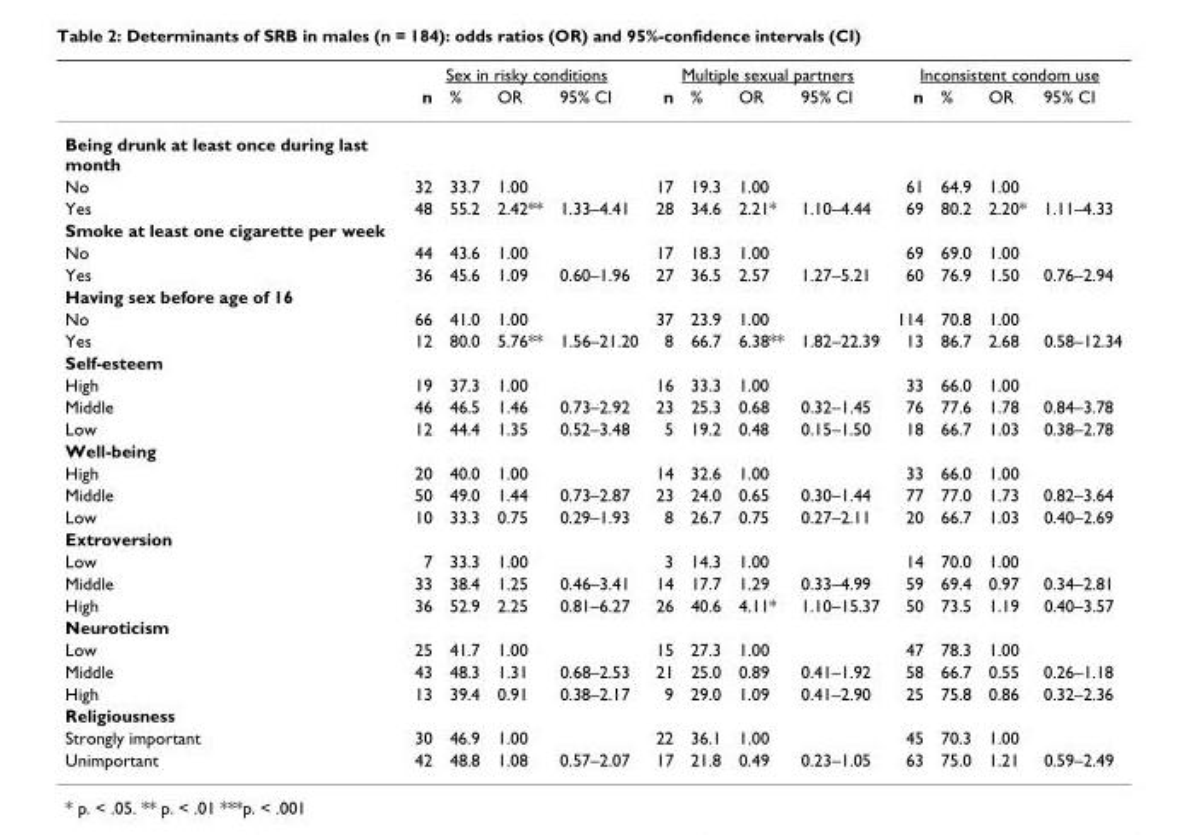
<table><thead><tr><td rowspan="2"></td><td colspan="4">Sex in risky conditions</td><td colspan="4">Multiple sexual partners</td><td colspan="4">Inconsistent condom use</td></tr><tr><td>n</td><td>%</td><td>OR</td><td>95% CI</td><td>n</td><td>%</td><td>OR</td><td>95% CI</td><td>n</td><td>%</td><td>OR</td><td>95% CI</td></tr></thead><tbody><tr><td colspan="13">Being drunk at least once during last month</td></tr><tr><td>No</td><td>32</td><td>33.7</td><td>1.00</td><td></td><td>17</td><td>19.3</td><td>1.00</td><td></td><td>61</td><td>64.9</td><td>1.00</td><td></td></tr><tr><td>Yes</td><td>48</td><td>55.2</td><td>2.42**</td><td>1.33–4.41</td><td>28</td><td>34.6</td><td>2.21*</td><td>1.10–4.44</td><td>69</td><td>80.2</td><td>2.20*</td><td>1.11–4.33</td></tr><tr><td colspan="13">Smoke at least one cigarette per week</td></tr><tr><td>No</td><td>44</td><td>43.6</td><td>1.00</td><td></td><td>17</td><td>18.3</td><td>1.00</td><td></td><td>69</td><td>69.0</td><td>1.00</td><td></td></tr><tr><td>Yes</td><td>36</td><td>45.6</td><td>1.09</td><td>0.60–1.96</td><td>27</td><td>36.5</td><td>2.57</td><td>1.27–5.21</td><td>60</td><td>76.9</td><td>1.50</td><td>0.76–2.94</td></tr><tr><td colspan="13">Having sex before age of 16</td></tr><tr><td>No</td><td>66</td><td>41.0</td><td>1.00</td><td></td><td>37</td><td>23.9</td><td>1.00</td><td></td><td>114</td><td>70.8</td><td>1.00</td><td></td></tr><tr><td>Yes</td><td>12</td><td>80.0</td><td>5.76**</td><td>1.56–21.20</td><td>8</td><td>66.7</td><td>6.38**</td><td>1.82–22.39</td><td>13</td><td>86.7</td><td>2.68</td><td>0.58–12.34</td></tr><tr><td colspan="13">Self-esteem</td></tr><tr><td>High</td><td>19</td><td>37.3</td><td>1.00</td><td></td><td>16</td><td>33.3</td><td>1.00</td><td></td><td>33</td><td>66.0</td><td>1.00</td><td></td></tr><tr><td>Middle</td><td>46</td><td>46.5</td><td>1.46</td><td>0.73–2.92</td><td>23</td><td>25.3</td><td>0.68</td><td>0.32–1.45</td><td>76</td><td>77.6</td><td>1.78</td><td>0.84–3.78</td></tr><tr><td>Low</td><td>12</td><td>44.4</td><td>1.35</td><td>0.52–3.48</td><td>5</td><td>19.2</td><td>0.48</td><td>0.15–1.50</td><td>18</td><td>66.7</td><td>1.03</td><td>0.38–2.78</td></tr><tr><td colspan="13">Well-being</td></tr><tr><td>High</td><td>20</td><td>40.0</td><td>1.00</td><td></td><td>14</td><td>32.6</td><td>1.00</td><td></td><td>33</td><td>66.0</td><td>1.00</td><td></td></tr><tr><td>Middle</td><td>50</td><td>49.0</td><td>1.44</td><td>0.73–2.87</td><td>23</td><td>24.0</td><td>0.65</td><td>0.30–1.44</td><td>77</td><td>77.0</td><td>1.73</td><td>0.82–3.64</td></tr><tr><td>Low</td><td>10</td><td>33.3</td><td>0.75</td><td>0.29–1.93</td><td>8</td><td>26.7</td><td>0.75</td><td>0.27–2.11</td><td>20</td><td>66.7</td><td>1.03</td><td>0.40–2.69</td></tr><tr><td colspan="13">Extroversion</td></tr><tr><td>Low</td><td>7</td><td>33.3</td><td>1.00</td><td></td><td>3</td><td>14.3</td><td>1.00</td><td></td><td>14</td><td>70.0</td><td>1.00</td><td></td></tr><tr><td>Middle</td><td>33</td><td>38.4</td><td>1.25</td><td>0.46–3.41</td><td>14</td><td>17.7</td><td>1.29</td><td>0.33–4.99</td><td>59</td><td>69.4</td><td>0.97</td><td>0.34–2.81</td></tr><tr><td>High</td><td>36</td><td>52.9</td><td>2.25</td><td>0.81–6.27</td><td>26</td><td>40.6</td><td>4.11*</td><td>1.10–15.37</td><td>50</td><td>73.5</td><td>1.19</td><td>0.40–3.57</td></tr><tr><td colspan="13">Neuroticism</td></tr><tr><td>Low</td><td>25</td><td>41.7</td><td>1.00</td><td></td><td>15</td><td>27.3</td><td>1.00</td><td></td><td>47</td><td>78.3</td><td>1.00</td><td></td></tr><tr><td>Middle</td><td>43</td><td>48.3</td><td>1.31</td><td>0.68–2.53</td><td>21</td><td>25.0</td><td>0.89</td><td>0.41–1.92</td><td>58</td><td>66.7</td><td>0.55</td><td>0.26–1.18</td></tr><tr><td>High</td><td>13</td><td>39.4</td><td>0.91</td><td>0.38–2.17</td><td>9</td><td>29.0</td><td>1.09</td><td>0.41–2.90</td><td>25</td><td>75.8</td><td>0.86</td><td>0.32–2.36</td></tr><tr><td colspan="13">Religiousness</td></tr><tr><td>Strongly important</td><td>30</td><td>46.9</td><td>1.00</td><td></td><td>22</td><td>36.1</td><td>1.00</td><td></td><td>45</td><td>70.3</td><td>1.00</td><td></td></tr><tr><td>Unimportant</td><td>42</td><td>48.8</td><td>1.08</td><td>0.57–2.07</td><td>17</td><td>21.8</td><td>0.49</td><td>0.23–1.05</td><td>63</td><td>75.0</td><td>1.21</td><td>0.59–2.49</td></tr></tbody></table>